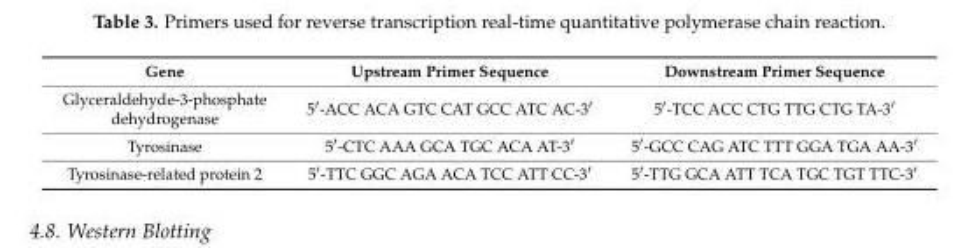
<table><thead><tr><td>Gene</td><td>Upstream Primer Sequence</td><td>Downstream Primer Sequence</td></tr></thead><tbody><tr><td>Glyceraldehyde-3-phosphate dehydrogenase</td><td>5′-ACC ACA GTC CAT GCC ATC AC-3′</td><td>5′-TCC ACC CTG TTG CTG TA-3′</td></tr><tr><td>Tyrosinase</td><td>5′-CTC AAA GCA TGC ACA AT-3′</td><td>5′-GCC CAG ATC TTT GGA TGA AA-3′</td></tr><tr><td>Tyrosinase-related protein 2</td><td>5′-TTC GGC AGA ACA TCC ATT CC-3′</td><td>5′-TTG GCA ATT TCA TGC TGT TTC-3′</td></tr></tbody></table>